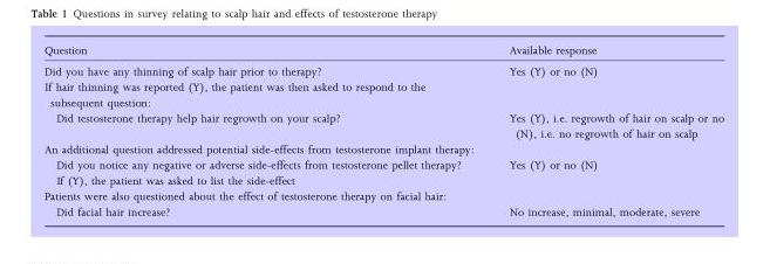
<table><thead><tr><td>Question</td><td>Available response</td></tr></thead><tbody><tr><td>Did you have any thinning of scalp hair prior to therapy?</td><td>Yes (Y) or no (N)</td></tr><tr><td colspan="2">If hair thinning was reported (Y), the patient was then asked to respond to the subsequent question:</td></tr><tr><td>Did testosterone therapy help hair regrowth on your scalp?</td><td>Yes (Y), i.e. regrowth of hair on scalp or no (N), i.e. no regrowth of hair on scalp</td></tr><tr><td colspan="2">An additional question addressed potential side-effects from testosterone implant therapy:</td></tr><tr><td>Did you notice any negative or adverse side-effects from testosterone pellet therapy? If (Y), the patient was asked to list the side-effect</td><td>Yes (Y) or no (N)</td></tr><tr><td colspan="2">Patients were also questioned about the effect of testosterone therapy on facial hair:</td></tr><tr><td>Did facial hair increase?</td><td>No increase, minimal, moderate, severe</td></tr></tbody></table>